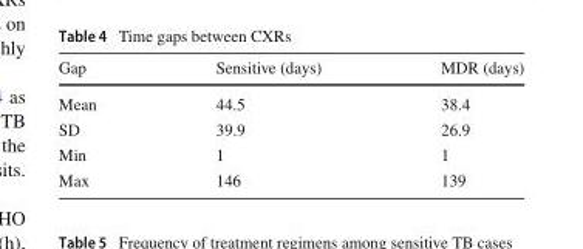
<table><thead><tr><td>Gap</td><td>Sensitive (days)</td><td>MDR (days)</td></tr></thead><tbody><tr><td>Mean</td><td>44.5</td><td>38.4</td></tr><tr><td>SD</td><td>39.9</td><td>26.9</td></tr><tr><td>Min</td><td>1</td><td>1</td></tr><tr><td>Max</td><td>146</td><td>139</td></tr></tbody></table>